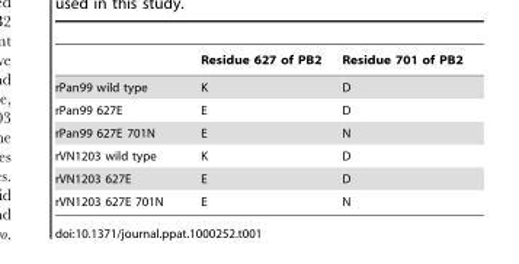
<table><thead><tr><td></td><td>Residue 627 of PB2</td><td>Residue 701 of PB2</td></tr></thead><tbody><tr><td>rPan99 wild type</td><td>K</td><td>D</td></tr><tr><td>rPan99 627E</td><td>E</td><td>D</td></tr><tr><td>rPan99 627E 701N</td><td>E</td><td>N</td></tr><tr><td>rVN1203 wild type</td><td>K</td><td>D</td></tr><tr><td>rVN1203 627E</td><td>E</td><td>D</td></tr><tr><td>rVN1203 627E 701N</td><td>E</td><td>N</td></tr></tbody></table>